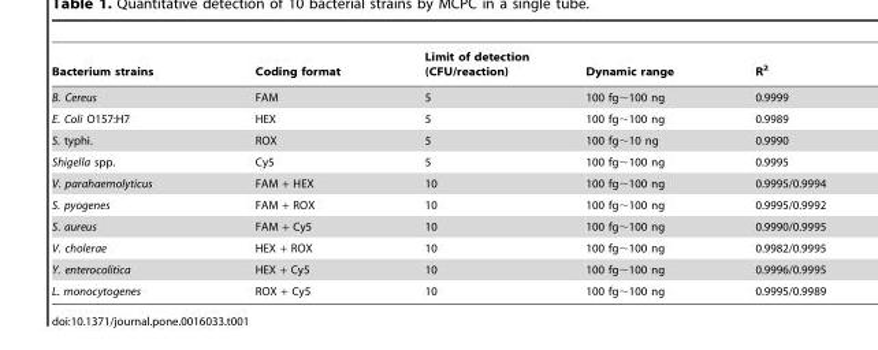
<table><thead><tr><td>Bacterium strains</td><td>Coding format</td><td>Limit of detection (CFU/reaction)</td><td>Dynamic range</td><td>R<sup>2</sup></td></tr></thead><tbody><tr><td>B. Cereus</td><td>FAM</td><td>5</td><td>100 fg∼100 ng</td><td>0.9999</td></tr><tr><td>E. Coli O157:H7</td><td>HEX</td><td>5</td><td>100 fg∼100 ng</td><td>0.9989</td></tr><tr><td>S. typhi.</td><td>ROX</td><td>5</td><td>100 fg∼10 ng</td><td>0.9990</td></tr><tr><td>Shigella spp.</td><td>Cy5</td><td>5</td><td>100 fg∼100 ng</td><td>0.9995</td></tr><tr><td>V. parahaemolyticus</td><td>FAM + HEX</td><td>10</td><td>100 fg∼100 ng</td><td>0.9995/0.9994</td></tr><tr><td>S. pyogenes</td><td>FAM + ROX</td><td>10</td><td>100 fg∼100 ng</td><td>0.9995/0.9992</td></tr><tr><td>S. aureus</td><td>FAM + Cy5</td><td>10</td><td>100 fg∼100 ng</td><td>0.9990/0.9995</td></tr><tr><td>V. cholerae</td><td>HEX + ROX</td><td>10</td><td>100 fg∼100 ng</td><td>0.9982/0.9995</td></tr><tr><td>Y. enterocolitica</td><td>HEX + Cy5</td><td>10</td><td>100 fg∼100 ng</td><td>0.9996/0.9995</td></tr><tr><td>L. monocytogenes</td><td>ROX + Cy5</td><td>10</td><td>100 fg∼100 ng</td><td>0.9995/0.9989</td></tr></tbody></table>